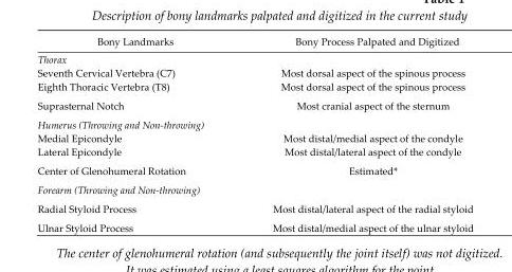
<table><thead><tr><td>Bony Landmarks</td><td>Bony Process Palpated and Digitized</td></tr></thead><tbody><tr><td colspan="2">Thorax</td></tr><tr><td>Seventh Cervical Vertebra (C7)</td><td>Most dorsal aspect of the spinous process</td></tr><tr><td>Eighth Thoracic Vertebra (T8)</td><td>Most dorsal aspect of the spinous process</td></tr><tr><td>Suprasternal Notch</td><td>Most cranial aspect of the sternum</td></tr><tr><td colspan="2">Humerus (Throwing and Non-throwing)</td></tr><tr><td>Medial Epicondyle</td><td>Most distal/medial aspect of the condyle</td></tr><tr><td>Lateral Epicondyle</td><td>Most distal/lateral aspect of the condyle</td></tr><tr><td>Center of Glenohumeral Rotation</td><td>Estimated*</td></tr><tr><td colspan="2">Forearm (Throwing and Non-throwing)</td></tr><tr><td>Radial Styloid Process</td><td>Most distal/lateral aspect of the radial styloid</td></tr><tr><td>Ulnar Styloid Process</td><td>Most distal/medial aspect of the ulnar styloid</td></tr></tbody></table>